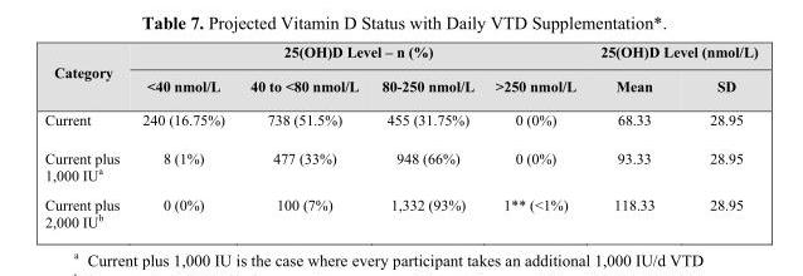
<table><thead><tr><td rowspan="2">Category</td><td colspan="3">25(OH)D Level – n (%)</td><td colspan="3">25(OH)D Level (nmol/L)</td></tr><tr><td>&lt;40 nmol/L</td><td>40 to &lt;80 nmol/L</td><td>80-250 nmol/L</td><td>&gt;250 nmol/L</td><td>Mean</td><td>SD</td></tr></thead><tbody><tr><td>Current</td><td>240 (16.75%)</td><td>738 (51.5%)</td><td>455 (31.75%)</td><td>0 (0%)</td><td>68.33</td><td>28.95</td></tr><tr><td>Current plus 1,000 IU<sup>a</sup></td><td>8 (1%)</td><td>477 (33%)</td><td>948 (66%)</td><td>0 (0%)</td><td>93.33</td><td>28.95</td></tr><tr><td>Current plus 2,000 IU<sup>b</sup></td><td>0 (0%)</td><td>100 (7%)</td><td>1,332 (93%)</td><td>1** (&lt;1%)</td><td>118.33</td><td>28.95</td></tr></tbody></table>